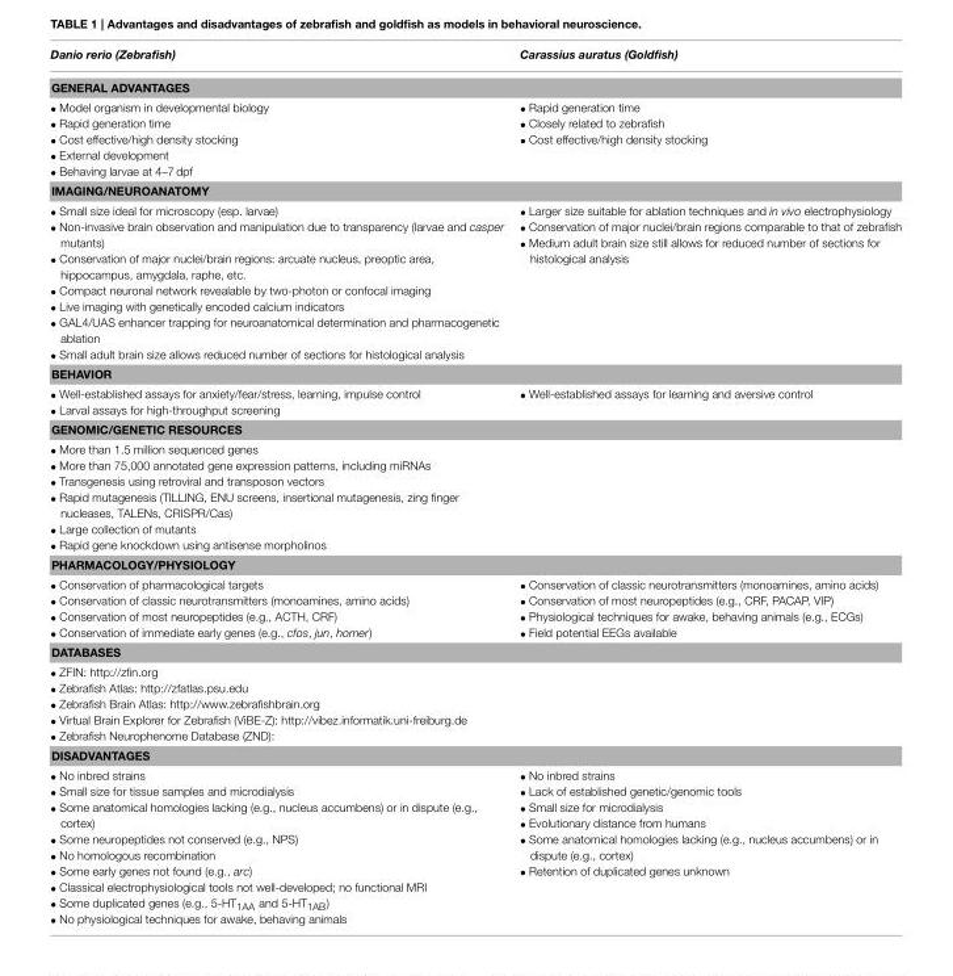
<table><thead><tr><td>Danio rerio (Zebrafish)</td><td>Carassius auratus (Goldfish)</td></tr></thead><tbody><tr><td colspan="2">GENERAL ADVANTAGES</td></tr><tr><td>• Model organism in developmental biology • Rapid generation time • Cost effective/high density stocking • External development • Behaving larvae at 4–7 dpf</td><td>• Rapid generation time • Closely related to zebrafish • Cost effective/high density stocking</td></tr><tr><td colspan="2">IMAGING/NEUROANATOMY</td></tr><tr><td>• Small size ideal for microscopy (esp. larvae) • Non-invasive brain observation and manipulation due to transparency (larvae and casper mutants) • Conservation of major nuclei/brain regions: arcuate nucleus, preoptic area, hippocampus, amygdala, raphe, etc. • Compact neuronal network revealable by two-photon or confocal imaging • Live imaging with genetically encoded calcium indicators • GAL4/UAS enhancer trapping for neuroanatomical determination and pharmacogenetic ablation • Small adult brain size allows reduced number of sections for histological analysis</td><td>• Larger size suitable for ablation techniques and in vivo electrophysiology • Conservation of major nuclei/brain regions comparable to that of zebrafish • Medium adult brain size still allows for reduced number of sections for histological analysis</td></tr><tr><td colspan="2">BEHAVIOR</td></tr><tr><td>• Well-established assays for anxiety/fear/stress, learning, impulse control • Larval assays for high-throughput screening</td><td>• Well-established assays for learning and aversive control</td></tr><tr><td colspan="2">GENOMIC/GENETIC RESOURCES</td></tr><tr><td colspan="2">• More than 1.5 million sequenced genes • More than 75,000 annotated gene expression patterns, including miRNAs • Transgenesis using retroviral and transposon vectors • Rapid mutagenesis (TILLING, ENU screens, insertional mutagenesis, zing finger nucleases, TALENs, CRISPR/Cas) • Large collection of mutants • Rapid gene knockdown using antisense morpholinos</td></tr><tr><td colspan="2">PHARMACOLOGY/PHYSIOLOGY</td></tr><tr><td>• Conservation of pharmacological targets • Conservation of classic neurotransmitters (monoamines, amino acids) • Conservation of most neuropeptides (e.g., ACTH, CRF) • Conservation of immediate early genes (e.g., cfos, jun, homer)</td><td>• Conservation of classic neurotransmitters (monoamines, amino acids) • Conservation of most neuropeptides (e.g., CRF, PACAP, VIP) • Physiological techniques for awake, behaving animals (e.g., ECGs) • Field potential EEGs available</td></tr><tr><td colspan="2">DATABASES</td></tr><tr><td colspan="2">• ZFIN: http://zfin.org • Zebrafish Atlas: http://zfatlas.psu.edu • Zebrafish Brain Atlas: http://www.zebrafishbrain.org • Virtual Brain Explorer for Zebrafish (ViBE-Z): http://vibez.informatik.uni-freiburg.de • Zebrafish Neurophenome Database (ZND):</td></tr><tr><td colspan="2">DISADVANTAGES</td></tr><tr><td>• No inbred strains • Small size for tissue samples and microdialysis • Some anatomical homologies lacking (e.g., nucleus accumbens) or in dispute (e.g., cortex) • Some neuropeptides not conserved (e.g., NPS) • No homologous recombination • Some early genes not found (e.g., arc) • Classical electrophysiological tools not well-developed; no functional MRI • Some duplicated genes (e.g., 5-HT<sub>1AA</sub> and 5-HT<sub>1AB</sub>) • No physiological techniques for awake, behaving animals</td><td>• No inbred strains • Lack of established genetic/genomic tools • Small size for microdialysis • Evolutionary distance from humans • Some anatomical homologies lacking (e.g., nucleus accumbens) or in dispute (e.g., cortex) • Retention of duplicated genes unknown</td></tr></tbody></table>